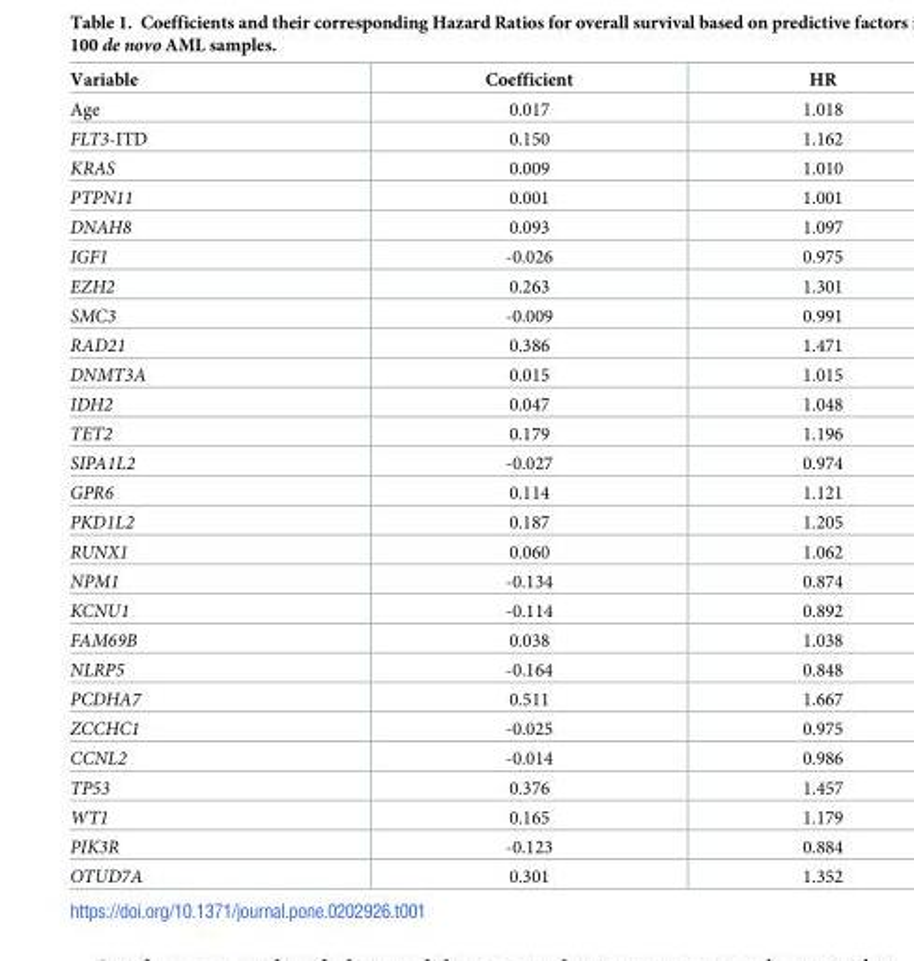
<table><thead><tr><td>Variable</td><td>Coefficient</td><td>HR</td></tr></thead><tbody><tr><td>Age</td><td>0.017</td><td>1.018</td></tr><tr><td>FLT3-ITD</td><td>0.150</td><td>1.162</td></tr><tr><td>KRAS</td><td>0.009</td><td>1.010</td></tr><tr><td>PTPN11</td><td>0.001</td><td>1.001</td></tr><tr><td>DNAH8</td><td>0.093</td><td>1.097</td></tr><tr><td>IGF1</td><td>-0.026</td><td>0.975</td></tr><tr><td>EZH2</td><td>0.263</td><td>1.301</td></tr><tr><td>SMC3</td><td>-0.009</td><td>0.991</td></tr><tr><td>RAD21</td><td>0.386</td><td>1.471</td></tr><tr><td>DNMT3A</td><td>0.015</td><td>1.015</td></tr><tr><td>IDH2</td><td>0.047</td><td>1.048</td></tr><tr><td>TET2</td><td>0.179</td><td>1.196</td></tr><tr><td>SIPA1L2</td><td>-0.027</td><td>0.974</td></tr><tr><td>GPR6</td><td>0.114</td><td>1.121</td></tr><tr><td>PKD1L2</td><td>0.187</td><td>1.205</td></tr><tr><td>RUNX1</td><td>0.060</td><td>1.062</td></tr><tr><td>NPM1</td><td>-0.134</td><td>0.874</td></tr><tr><td>KCNU1</td><td>-0.114</td><td>0.892</td></tr><tr><td>FAM69B</td><td>0.038</td><td>1.038</td></tr><tr><td>NLRP5</td><td>-0.164</td><td>0.848</td></tr><tr><td>PCDHA7</td><td>0.511</td><td>1.667</td></tr><tr><td>ZCCHC1</td><td>-0.025</td><td>0.975</td></tr><tr><td>CCNL2</td><td>-0.014</td><td>0.986</td></tr><tr><td>TP53</td><td>0.376</td><td>1.457</td></tr><tr><td>WT1</td><td>0.165</td><td>1.179</td></tr><tr><td>PIK3R</td><td>-0.123</td><td>0.884</td></tr><tr><td>OTUD7A</td><td>0.301</td><td>1.352</td></tr></tbody></table>